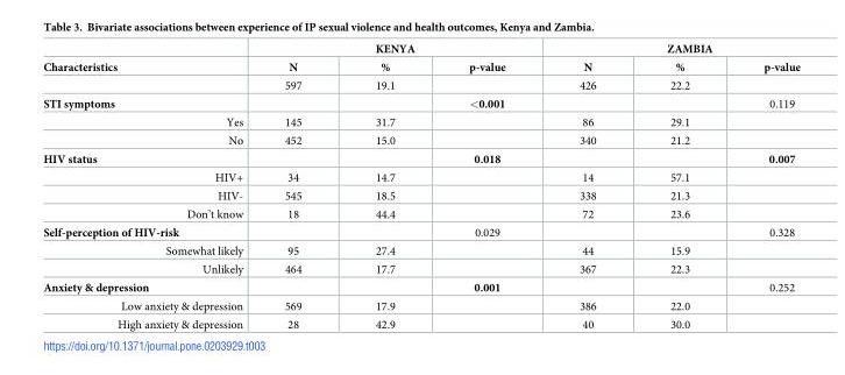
<table><thead><tr><td rowspan="2">Characteristics</td><td colspan="3">KENYA</td><td colspan="3">ZAMBIA</td></tr><tr><td>N</td><td>%</td><td>p-value</td><td>N</td><td>%</td><td>p-value</td></tr></thead><tbody><tr><td></td><td>597</td><td>19.1</td><td></td><td>426</td><td>22.2</td><td></td></tr><tr><td>STI symptoms</td><td></td><td></td><td>&lt;0.001</td><td></td><td></td><td>0.119</td></tr><tr><td>Yes</td><td>145</td><td>31.7</td><td></td><td>86</td><td>29.1</td><td></td></tr><tr><td>No</td><td>452</td><td>15.0</td><td></td><td>340</td><td>21.2</td><td></td></tr><tr><td>HIV status</td><td></td><td></td><td>0.018</td><td></td><td></td><td>0.007</td></tr><tr><td>HIV+</td><td>34</td><td>14.7</td><td></td><td>14</td><td>57.1</td><td></td></tr><tr><td>HIV-</td><td>545</td><td>18.5</td><td></td><td>338</td><td>21.3</td><td></td></tr><tr><td>Don’t know</td><td>18</td><td>44.4</td><td></td><td>72</td><td>23.6</td><td></td></tr><tr><td>Self-perception of HIV-risk</td><td></td><td></td><td>0.029</td><td></td><td></td><td>0.328</td></tr><tr><td>Somewhat likely</td><td>95</td><td>27.4</td><td></td><td>44</td><td>15.9</td><td></td></tr><tr><td>Unlikely</td><td>464</td><td>17.7</td><td></td><td>367</td><td>22.3</td><td></td></tr><tr><td>Anxiety &amp; depression</td><td></td><td></td><td>0.001</td><td></td><td></td><td>0.252</td></tr><tr><td>Low anxiety &amp; depression</td><td>569</td><td>17.9</td><td></td><td>386</td><td>22.0</td><td></td></tr><tr><td>High anxiety &amp; depression</td><td>28</td><td>42.9</td><td></td><td>40</td><td>30.0</td><td></td></tr></tbody></table>